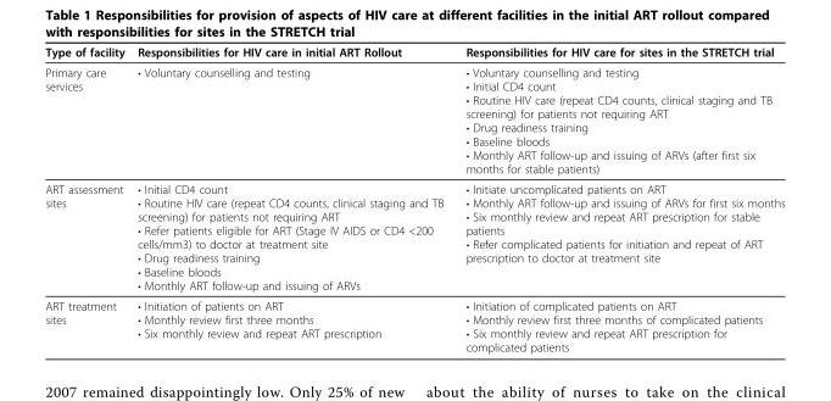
<table><thead><tr><td>Type of facility</td><td>Responsibilities for HIV care in initial ART Rollout</td><td>Responsibilities for HIV care for sites in the STRETCH trial</td></tr></thead><tbody><tr><td>Primary care services</td><td>• Voluntary counselling and testing</td><td>• Voluntary counselling and testing • Initial CD4 count • Routine HIV care (repeat CD4 counts, clinical staging and TB screening) for patients not requiring ART • Drug readiness training • Baseline bloods • Monthly ART follow-up and issuing of ARVs (after first six months for stable patients)</td></tr><tr><td>ART assessment sites</td><td>• Initial CD4 count • Routine HIV care (repeat CD4 counts, clinical staging and TB screening) for patients not requiring ART • Refer patients eligible for ART (Stage IV AIDS or CD4 &lt;200 cells/mm3) to doctor at treatment site • Drug readiness training • Baseline bloods • Monthly ART follow-up and issuing of ARVs</td><td>• Initiate uncomplicated patients on ART • Monthly ART follow-up and issuing of ARVs for first six months • Six monthly review and repeat ART prescription for stable patients • Refer complicated patients for initiation and repeat of ART prescription to doctor at treatment site</td></tr><tr><td>ART treatment sites</td><td>• Initiation of patients on ART • Monthly review first three months • Six monthly review and repeat ART prescription</td><td>• Initiation of complicated patients on ART • Monthly review first three months of complicated patients • Six monthly review and repeat ART prescription for complicated patients</td></tr></tbody></table>